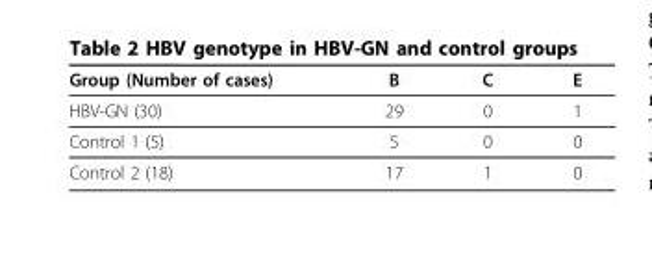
<table><thead><tr><td>Group (Number of cases)</td><td>B</td><td>C</td><td>E</td></tr></thead><tbody><tr><td>HBV-GN (30)</td><td>29</td><td>0</td><td>1</td></tr><tr><td>Control 1 (5)</td><td>5</td><td>0</td><td>0</td></tr><tr><td>Control 2 (18)</td><td>17</td><td>1</td><td>0</td></tr></tbody></table>